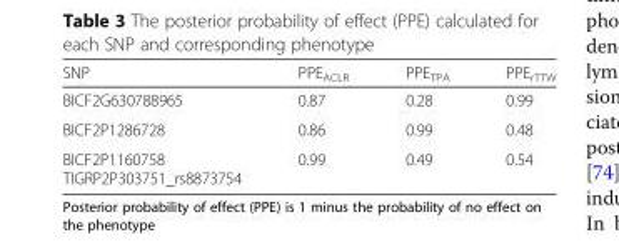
<table><thead><tr><td>SNP</td><td>PPE<sub>ACLR</sub></td><td>PPE<sub>TPA</sub></td><td>PPE<sub>rTTW</sub></td></tr></thead><tbody><tr><td>BICF2G630788965</td><td>0.87</td><td>0.28</td><td>0.99</td></tr><tr><td>BICF2P1286728</td><td>0.86</td><td>0.99</td><td>0.48</td></tr><tr><td>BICF2P1160758 TIGRP2P303751_rs8873754</td><td>0.99</td><td>0.49</td><td>0.54</td></tr></tbody></table>